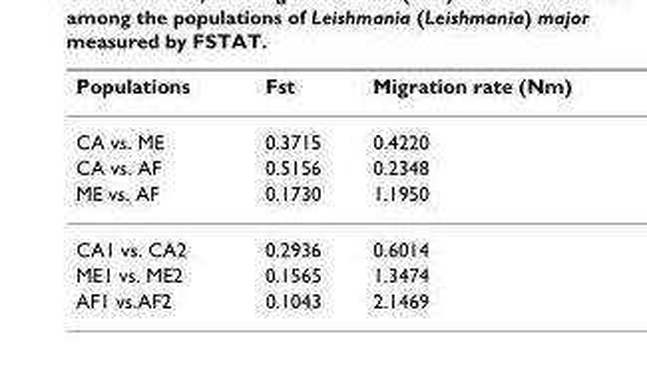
<table><thead><tr><td>Populations</td><td>Fst</td><td>Migration rate (Nm)</td></tr></thead><tbody><tr><td>CA vs. ME</td><td>0.3715</td><td>0.4220</td></tr><tr><td>CA vs. AF</td><td>0.5156</td><td>0.2348</td></tr><tr><td>ME vs. AF</td><td>0.1730</td><td>1.1950</td></tr><tr><td>CA1 vs. CA2</td><td>0.2936</td><td>0.6014</td></tr><tr><td>ME1 vs. ME2</td><td>0.1565</td><td>1.3474</td></tr><tr><td>AF1 vs.AF2</td><td>0.1043</td><td>2.1469</td></tr></tbody></table>